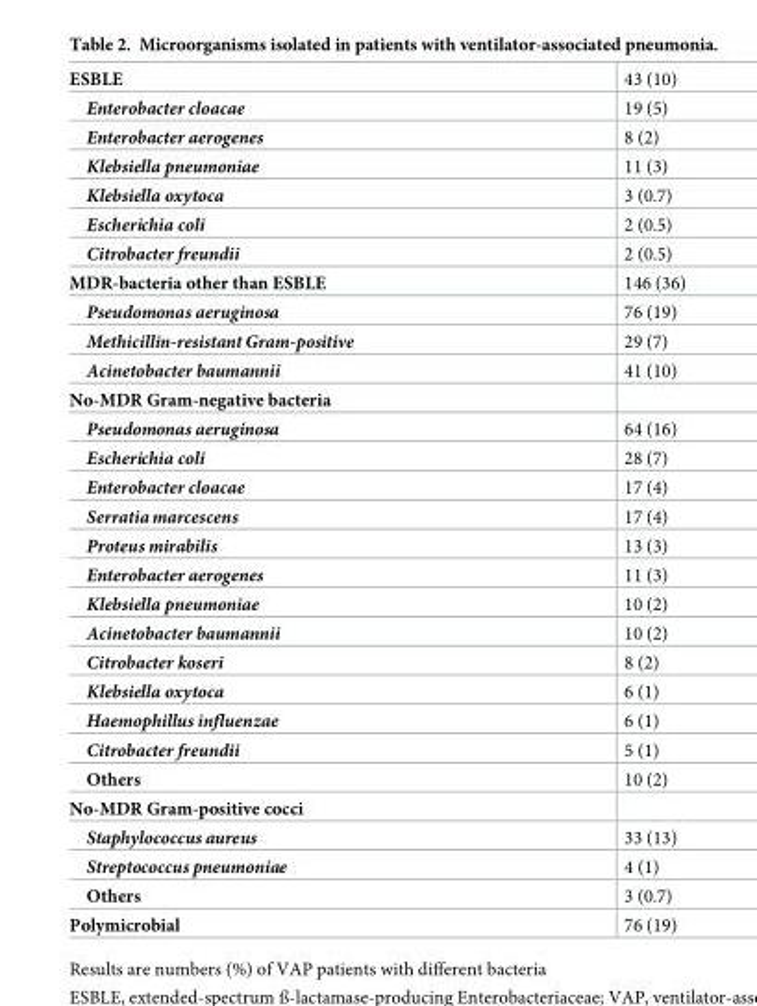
<table><tbody><tr><td>ESBLE</td><td>43 (10)</td></tr><tr><td>Enterobacter cloacae</td><td>19 (5)</td></tr><tr><td>Enterobacter aerogenes</td><td>8 (2)</td></tr><tr><td>Klebsiella pneumoniae</td><td>11 (3)</td></tr><tr><td>Klebsiella oxytoca</td><td>3 (0.7)</td></tr><tr><td>Escherichia coli</td><td>2 (0.5)</td></tr><tr><td>Citrobacter freundii</td><td>2 (0.5)</td></tr><tr><td>MDR-bacteria other than ESBLE</td><td>146 (36)</td></tr><tr><td>Pseudomonas aeruginosa</td><td>76 (19)</td></tr><tr><td>Methicillin-resistant Gram-positive</td><td>29 (7)</td></tr><tr><td>Acinetobacter baumannii</td><td>41 (10)</td></tr><tr><td colspan="2">No-MDR Gram-negative bacteria</td></tr><tr><td>Pseudomonas aeruginosa</td><td>64 (16)</td></tr><tr><td>Escherichia coli</td><td>28 (7)</td></tr><tr><td>Enterobacter cloacae</td><td>17 (4)</td></tr><tr><td>Serratia marcescens</td><td>17 (4)</td></tr><tr><td>Proteus mirabilis</td><td>13 (3)</td></tr><tr><td>Enterobacter aerogenes</td><td>11 (3)</td></tr><tr><td>Klebsiella pneumoniae</td><td>10 (2)</td></tr><tr><td>Acinetobacter baumannii</td><td>10 (2)</td></tr><tr><td>Citrobacter koseri</td><td>8 (2)</td></tr><tr><td>Klebsiella oxytoca</td><td>6 (1)</td></tr><tr><td>Haemophillus influenzae</td><td>6 (1)</td></tr><tr><td>Citrobacter freundii</td><td>5 (1)</td></tr><tr><td>Others</td><td>10 (2)</td></tr><tr><td colspan="2">No-MDR Gram-positive cocci</td></tr><tr><td>Staphylococcus aureus</td><td>33 (13)</td></tr><tr><td>Streptococcus pneumoniae</td><td>4 (1)</td></tr><tr><td>Others</td><td>3 (0.7)</td></tr><tr><td>Polymicrobial</td><td>76 (19)</td></tr></tbody></table>